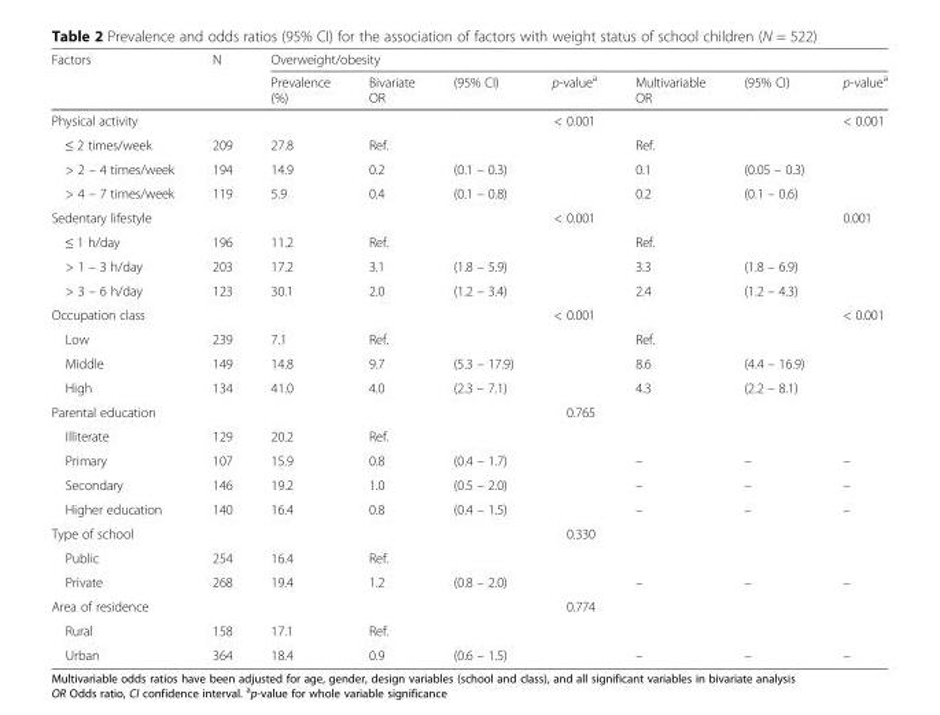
<table><thead><tr><td rowspan="2">Factors</td><td rowspan="2">N</td><td colspan="7">Overweight/obesity</td></tr><tr><td>Prevalence (%)</td><td>Bivariate OR</td><td>(95% CI)</td><td>p-value<sup>a</sup></td><td>Multivariable OR</td><td>(95% CI)</td><td>p-value<sup>a</sup></td></tr></thead><tbody><tr><td>Physical activity</td><td></td><td></td><td></td><td></td><td>&lt; 0.001</td><td></td><td></td><td>&lt; 0.001</td></tr><tr><td>≤ 2 times/week</td><td>209</td><td>27.8</td><td>Ref.</td><td></td><td></td><td>Ref.</td><td></td><td></td></tr><tr><td>&gt; 2 – 4 times/week</td><td>194</td><td>14.9</td><td>0.2</td><td>(0.1 – 0.3)</td><td></td><td>0.1</td><td>(0.05 – 0.3)</td><td></td></tr><tr><td>&gt; 4 – 7 times/week</td><td>119</td><td>5.9</td><td>0.4</td><td>(0.1 – 0.8)</td><td></td><td>0.2</td><td>(0.1 – 0.6)</td><td></td></tr><tr><td>Sedentary lifestyle</td><td></td><td></td><td></td><td></td><td>&lt; 0.001</td><td></td><td></td><td>0.001</td></tr><tr><td>≤ 1 h/day</td><td>196</td><td>11.2</td><td>Ref.</td><td></td><td></td><td>Ref.</td><td></td><td></td></tr><tr><td>&gt; 1 – 3 h/day</td><td>203</td><td>17.2</td><td>3.1</td><td>(1.8 – 5.9)</td><td></td><td>3.3</td><td>(1.8 – 6.9)</td><td></td></tr><tr><td>&gt; 3 – 6 h/day</td><td>123</td><td>30.1</td><td>2.0</td><td>(1.2 – 3.4)</td><td></td><td>2.4</td><td>(1.2 – 4.3)</td><td></td></tr><tr><td>Occupation class</td><td></td><td></td><td></td><td></td><td>&lt; 0.001</td><td></td><td></td><td>&lt; 0.001</td></tr><tr><td>Low</td><td>239</td><td>7.1</td><td>Ref.</td><td></td><td></td><td>Ref.</td><td></td><td></td></tr><tr><td>Middle</td><td>149</td><td>14.8</td><td>9.7</td><td>(5.3 – 17.9)</td><td></td><td>8.6</td><td>(4.4 – 16.9)</td><td></td></tr><tr><td>High</td><td>134</td><td>41.0</td><td>4.0</td><td>(2.3 – 7.1)</td><td></td><td>4.3</td><td>(2.2 – 8.1)</td><td></td></tr><tr><td>Parental education</td><td></td><td></td><td></td><td></td><td>0.765</td><td></td><td></td><td></td></tr><tr><td>Illiterate</td><td>129</td><td>20.2</td><td>Ref.</td><td></td><td></td><td></td><td></td><td></td></tr><tr><td>Primary</td><td>107</td><td>15.9</td><td>0.8</td><td>(0.4 – 1.7)</td><td></td><td>–</td><td>–</td><td>–</td></tr><tr><td>Secondary</td><td>146</td><td>19.2</td><td>1.0</td><td>(0.5 – 2.0)</td><td></td><td>–</td><td>–</td><td>–</td></tr><tr><td>Higher education</td><td>140</td><td>16.4</td><td>0.8</td><td>(0.4 – 1.5)</td><td></td><td>–</td><td>–</td><td>–</td></tr><tr><td>Type of school</td><td></td><td></td><td></td><td></td><td>0.330</td><td></td><td></td><td></td></tr><tr><td>Public</td><td>254</td><td>16.4</td><td>Ref.</td><td></td><td></td><td></td><td></td><td></td></tr><tr><td>Private</td><td>268</td><td>19.4</td><td>1.2</td><td>(0.8 – 2.0)</td><td></td><td>–</td><td>–</td><td>–</td></tr><tr><td>Area of residence</td><td></td><td></td><td></td><td></td><td>0.774</td><td></td><td></td><td></td></tr><tr><td>Rural</td><td>158</td><td>17.1</td><td>Ref.</td><td></td><td></td><td></td><td></td><td></td></tr><tr><td>Urban</td><td>364</td><td>18.4</td><td>0.9</td><td>(0.6 – 1.5)</td><td></td><td>–</td><td>–</td><td>–</td></tr></tbody></table>